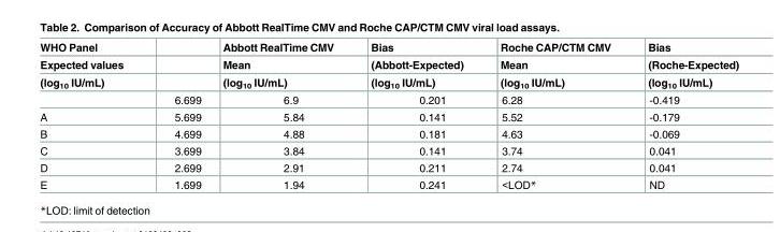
<table><thead><tr><td rowspan="3">WHO Panel Expected values (log<sub>10</sub> IU/mL)</td><td rowspan="3"></td><td rowspan="3">Abbott RealTime CMV Mean (log<sub>10</sub> IU/mL)</td><td rowspan="3">Bias (Abbott-Expected) (log<sub>10</sub> IU/mL)</td><td rowspan="3">Roche CAP/CTM CMV Mean (log<sub>10</sub> IU/mL)</td><td rowspan="3">Bias (Roche-Expected) (log<sub>10</sub> IU/mL)</td></tr><tr></tr><tr></tr></thead><tbody><tr><td></td><td>6.699</td><td>6.9</td><td>0.201</td><td>6.28</td><td>-0.419</td></tr><tr><td>A</td><td>5.699</td><td>5.84</td><td>0.141</td><td>5.52</td><td>-0.179</td></tr><tr><td>B</td><td>4.699</td><td>4.88</td><td>0.181</td><td>4.63</td><td>-0.069</td></tr><tr><td>C</td><td>3.699</td><td>3.84</td><td>0.141</td><td>3.74</td><td>0.041</td></tr><tr><td>D</td><td>2.699</td><td>2.91</td><td>0.211</td><td>2.74</td><td>0.041</td></tr><tr><td>E</td><td>1.699</td><td>1.94</td><td>0.241</td><td>&lt;LOD*</td><td>ND</td></tr></tbody></table>